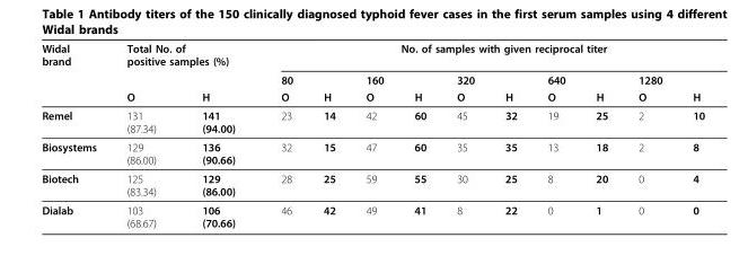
<table><thead><tr><td rowspan="3">Widal brand</td><td colspan="2">Total No. of positive samples (%)</td><td colspan="10">No. of samples with given reciprocal titer</td></tr><tr><td rowspan="2">O</td><td rowspan="2">H</td><td rowspan="2">80 O</td><td rowspan="2">H</td><td rowspan="2">160 O</td><td rowspan="2">H</td><td rowspan="2">320 O</td><td rowspan="2">H</td><td rowspan="2">640 O</td><td rowspan="2">H</td><td rowspan="2">1280 O</td><td rowspan="2">H</td></tr><tr></tr></thead><tbody><tr><td>Remel</td><td>131 (87.34)</td><td>141 (94.00)</td><td>23</td><td>14</td><td>42</td><td>60</td><td>45</td><td>32</td><td>19</td><td>25</td><td>2</td><td>10</td></tr><tr><td>Biosystems</td><td>129 (86.00)</td><td>136 (90.66)</td><td>32</td><td>15</td><td>47</td><td>60</td><td>35</td><td>35</td><td>13</td><td>18</td><td>2</td><td>8</td></tr><tr><td>Biotech</td><td>125 (83.34)</td><td>129 (86.00)</td><td>28</td><td>25</td><td>59</td><td>55</td><td>30</td><td>25</td><td>8</td><td>20</td><td>0</td><td>4</td></tr><tr><td>Dialab</td><td>103 (68.67)</td><td>106 (70.66)</td><td>46</td><td>42</td><td>49</td><td>41</td><td>8</td><td>22</td><td>0</td><td>1</td><td>0</td><td>0</td></tr></tbody></table>